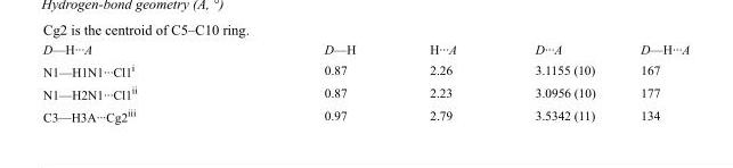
<table><tbody><tr><td>D—H···A</td><td>D—H</td><td>H···A</td><td>D···A</td><td>D—H···A</td></tr><tr><td>N1—H1N1···Cl1<sup>i</sup></td><td>0.87</td><td>2.26</td><td>3.1155 (10)</td><td>167</td></tr><tr><td>N1—H2N1···Cl1<sup>ii</sup></td><td>0.87</td><td>2.23</td><td>3.0956 (10)</td><td>177</td></tr><tr><td>C3—H3A···Cg2<sup>iii</sup></td><td>0.97</td><td>2.79</td><td>3.5342 (11)</td><td>134</td></tr></tbody></table>